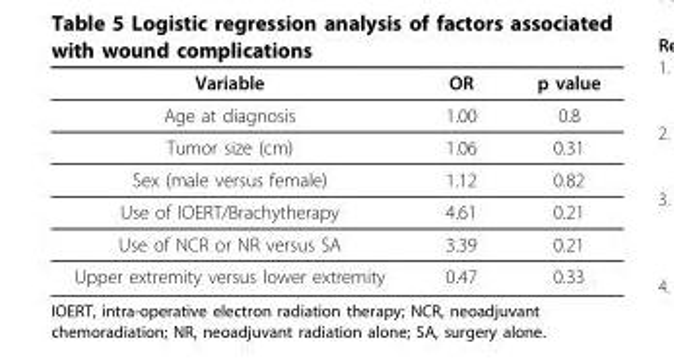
<table><thead><tr><td>Variable</td><td>OR</td><td>p value</td></tr></thead><tbody><tr><td>Age at diagnosis</td><td>1.00</td><td>0.8</td></tr><tr><td>Tumor size (cm)</td><td>1.06</td><td>0.31</td></tr><tr><td>Sex (male versus female)</td><td>1.12</td><td>0.82</td></tr><tr><td>Use of IOERT/Brachytherapy</td><td>4.61</td><td>0.21</td></tr><tr><td>Use of NCR or NR versus SA</td><td>3.39</td><td>0.21</td></tr><tr><td>Upper extremity versus lower extremity</td><td>0.47</td><td>0.33</td></tr></tbody></table>